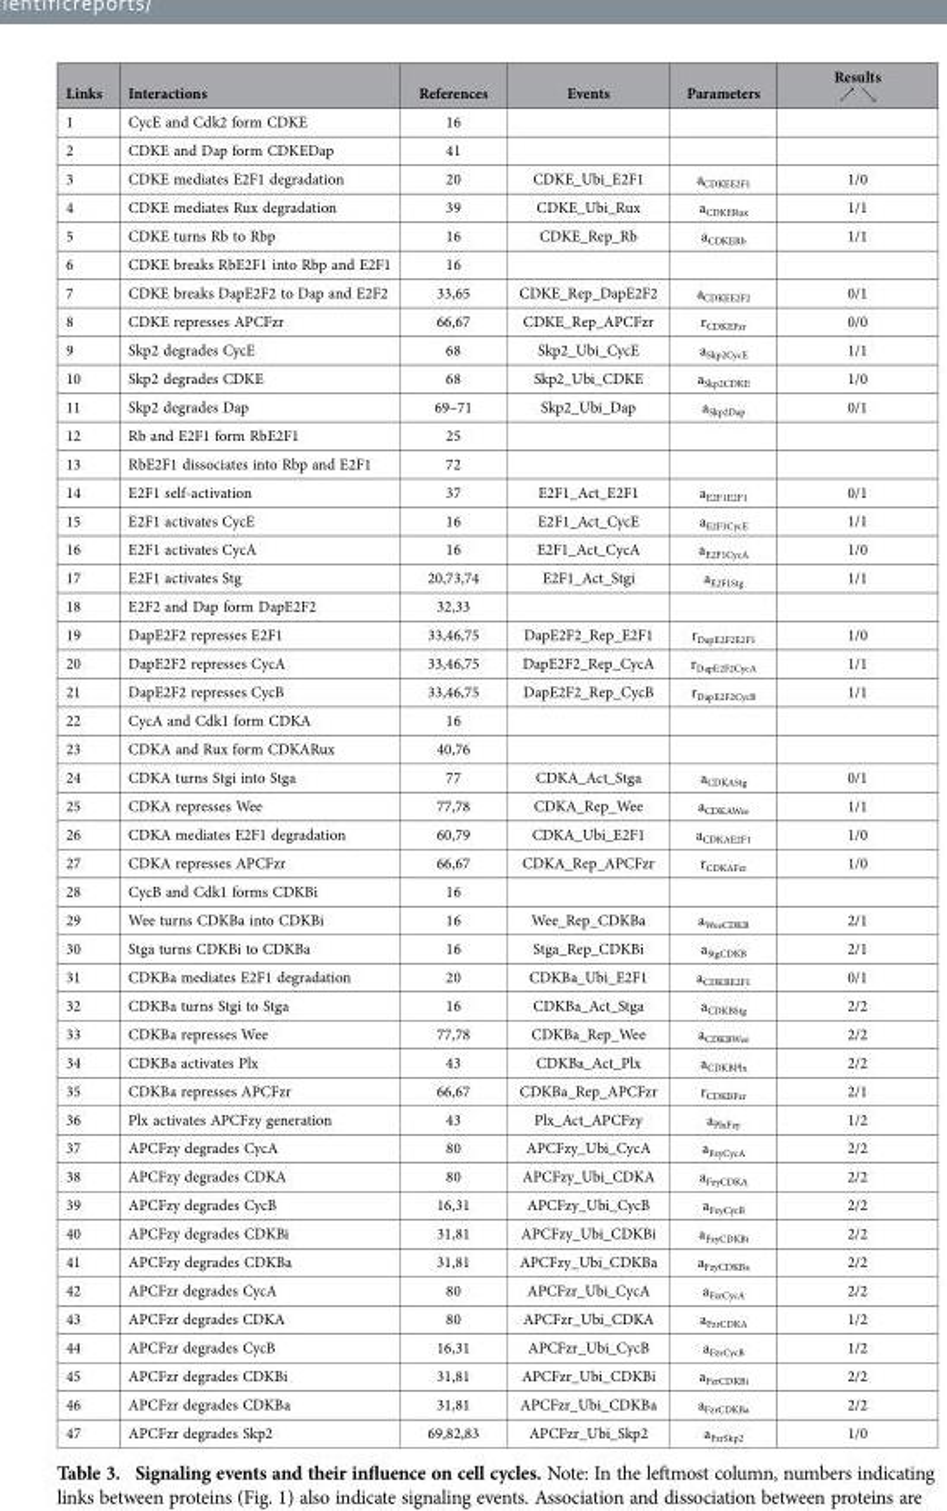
<table><thead><tr><td>Links</td><td>Interactions</td><td>References</td><td>Events</td><td>Parameters</td><td>Results ↗ ↘</td></tr></thead><tbody><tr><td>1</td><td>CycE and Cdk2 form CDKE</td><td>16</td><td></td><td></td><td></td></tr><tr><td>2</td><td>CDKE and Dap form CDKEDap</td><td>41</td><td></td><td></td><td></td></tr><tr><td>3</td><td>CDKE mediates E2F1 degradation</td><td>20</td><td>CDKE_Ubi_E2F1</td><td>a<sub>CDKEE2F1</sub></td><td>1/0</td></tr><tr><td>4</td><td>CDKE mediates Rux degradation</td><td>39</td><td>CDKE_Ubi_Rux</td><td>a<sub>CDKERux</sub></td><td>1/1</td></tr><tr><td>5</td><td>CDKE turns Rb to Rbp</td><td>16</td><td>CDKE_Rep_Rb</td><td>a<sub>CDKERb</sub></td><td>1/1</td></tr><tr><td>6</td><td>CDKE breaks RbE2F1 into Rbp and E2F1</td><td>16</td><td></td><td></td><td></td></tr><tr><td>7</td><td>CDKE breaks DapE2F2 to Dap and E2F2</td><td>33,65</td><td>CDKE_Rep_DapE2F2</td><td>a<sub>CDKEE2F2</sub></td><td>0/1</td></tr><tr><td>8</td><td>CDKE represses APCFzr</td><td>66,67</td><td>CDKE_Rep_APCFzr</td><td>r<sub>CDKEFzr</sub></td><td>0/0</td></tr><tr><td>9</td><td>Skp2 degrades CycE</td><td>68</td><td>Skp2_Ubi_CycE</td><td>a<sub>Skp2CycE</sub></td><td>1/1</td></tr><tr><td>10</td><td>Skp2 degrades CDKE</td><td>68</td><td>Skp2_Ubi_CDKE</td><td>a<sub>Skp2CDKE</sub></td><td>1/0</td></tr><tr><td>11</td><td>Skp2 degrades Dap</td><td>69–71</td><td>Skp2_Ubi_Dap</td><td>a<sub>Skp2Dap</sub></td><td>0/1</td></tr><tr><td>12</td><td>Rb and E2F1 form RbE2F1</td><td>25</td><td></td><td></td><td></td></tr><tr><td>13</td><td>RbE2F1 dissociates into Rbp and E2F1</td><td>72</td><td></td><td></td><td></td></tr><tr><td>14</td><td>E2F1 self-activation</td><td>37</td><td>E2F1_Act_E2F1</td><td>a<sub>E2F1E2F1</sub></td><td>0/1</td></tr><tr><td>15</td><td>E2F1 activates CycE</td><td>16</td><td>E2F1_Act_CycE</td><td>a<sub>E2F1CycE</sub></td><td>1/1</td></tr><tr><td>16</td><td>E2F1 activates CycA</td><td>16</td><td>E2F1_Act_CycA</td><td>a<sub>E2F1CycA</sub></td><td>1/0</td></tr><tr><td>17</td><td>E2F1 activates Stg</td><td>20,73,74</td><td>E2F1_Act_Stgi</td><td>a<sub>E2F1Stg</sub></td><td>1/1</td></tr><tr><td>18</td><td>E2F2 and Dap form DapE2F2</td><td>32,33</td><td></td><td></td><td></td></tr><tr><td>19</td><td>DapE2F2 represses E2F1</td><td>33,46,75</td><td>DapE2F2_Rep_E2F1</td><td>r<sub>DapE2F2E2F1</sub></td><td>1/0</td></tr><tr><td>20</td><td>DapE2F2 represses CycA</td><td>33,46,75</td><td>DapE2F2_Rep_CycA</td><td>r<sub>DapE2F2CycA</sub></td><td>1/1</td></tr><tr><td>21</td><td>DapE2F2 represses CycB</td><td>33,46,75</td><td>DapE2F2_Rep_CycB</td><td>r<sub>DapE2F2CycB</sub></td><td>1/1</td></tr><tr><td>22</td><td>CycA and Cdk1 form CDKA</td><td>16</td><td></td><td></td><td></td></tr><tr><td>23</td><td>CDKA and Rux form CDKARux</td><td>40,76</td><td></td><td></td><td></td></tr><tr><td>24</td><td>CDKA turns Stgi into Stga</td><td>77</td><td>CDKA_Act_Stga</td><td>a<sub>CDKAStg</sub></td><td>0/1</td></tr><tr><td>25</td><td>CDKA represses Wee</td><td>77,78</td><td>CDKA_Rep_Wee</td><td>a<sub>CDKAWee</sub></td><td>1/1</td></tr><tr><td>26</td><td>CDKA mediates E2F1 degradation</td><td>60,79</td><td>CDKA_Ubi_E2F1</td><td>a<sub>CDKAE2F1</sub></td><td>1/0</td></tr><tr><td>27</td><td>CDKA represses APCFzr</td><td>66,67</td><td>CDKA_Rep_APCFzr</td><td>r<sub>CDKAFzr</sub></td><td>1/0</td></tr><tr><td>28</td><td>CycB and Cdk1 forms CDKBi</td><td>16</td><td></td><td></td><td></td></tr><tr><td>29</td><td>Wee turns CDKBa into CDKBi</td><td>16</td><td>Wee_Rep_CDKBa</td><td>a<sub>WeeCDKB</sub></td><td>2/1</td></tr><tr><td>30</td><td>Stga turns CDKBi to CDKBa</td><td>16</td><td>Stga_Rep_CDKBi</td><td>a<sub>StgCDKB</sub></td><td>2/1</td></tr><tr><td>31</td><td>CDKBa mediates E2F1 degradation</td><td>20</td><td>CDKBa_Ubi_E2F1</td><td>a<sub>CDKBE2F1</sub></td><td>0/1</td></tr><tr><td>32</td><td>CDKBa turns Stgi to Stga</td><td>16</td><td>CDKBa_Act_Stga</td><td>a<sub>CDKBStg</sub></td><td>2/2</td></tr><tr><td>33</td><td>CDKBa represses Wee</td><td>77,78</td><td>CDKBa_Rep_Wee</td><td>a<sub>CDKBWee</sub></td><td>2/2</td></tr><tr><td>34</td><td>CDKBa activates Plx</td><td>43</td><td>CDKBa_Act_Plx</td><td>a<sub>CDKBPlx</sub></td><td>2/2</td></tr><tr><td>35</td><td>CDKBa represses APCFzr</td><td>66,67</td><td>CDKBa_Rep_APCFzr</td><td>r<sub>CDKBFzr</sub></td><td>2/1</td></tr><tr><td>36</td><td>Plx activates APCFzy generation</td><td>43</td><td>Plx_Act_APCFzy</td><td>a<sub>PlxFzy</sub></td><td>1/2</td></tr><tr><td>37</td><td>APCFzy degrades CycA</td><td>80</td><td>APCFzy_Ubi_CycA</td><td>a<sub>FzyCycA</sub></td><td>2/2</td></tr><tr><td>38</td><td>APCFzy degrades CDKA</td><td>80</td><td>APCFzy_Ubi_CDKA</td><td>a<sub>FzyCDKA</sub></td><td>2/2</td></tr><tr><td>39</td><td>APCFzy degrades CycB</td><td>16,31</td><td>APCFzy_Ubi_CycB</td><td>a<sub>FzyCycB</sub></td><td>2/2</td></tr><tr><td>40</td><td>APCFzy degrades CDKBi</td><td>31,81</td><td>APCFzy_Ubi_CDKBi</td><td>a<sub>FzyCDKBi</sub></td><td>2/2</td></tr><tr><td>41</td><td>APCFzy degrades CDKBa</td><td>31,81</td><td>APCFzy_Ubi_CDKBa</td><td>a<sub>FzyCDKBa</sub></td><td>2/2</td></tr><tr><td>42</td><td>APCFzr degrades CycA</td><td>80</td><td>APCFzr_Ubi_CycA</td><td>a<sub>FzrCycA</sub></td><td>2/2</td></tr><tr><td>43</td><td>APCFzr degrades CDKA</td><td>80</td><td>APCFzr_Ubi_CDKA</td><td>a<sub>FzrCDKA</sub></td><td>1/2</td></tr><tr><td>44</td><td>APCFzr degrades CycB</td><td>16,31</td><td>APCFzr_Ubi_CycB</td><td>a<sub>FzrCycB</sub></td><td>1/2</td></tr><tr><td>45</td><td>APCFzr degrades CDKBi</td><td>31,81</td><td>APCFzr_Ubi_CDKBi</td><td>a<sub>FzrCDKBi</sub></td><td>2/2</td></tr><tr><td>46</td><td>APCFzr degrades CDKBa</td><td>31,81</td><td>APCFzr_Ubi_CDKBa</td><td>a<sub>FzrCDKBa</sub></td><td>2/2</td></tr><tr><td>47</td><td>APCFzr degrades Skp2</td><td>69,82,83</td><td>APCFzr_Ubi_Skp2</td><td>a<sub>FzrSkp2</sub></td><td>1/0</td></tr></tbody></table>